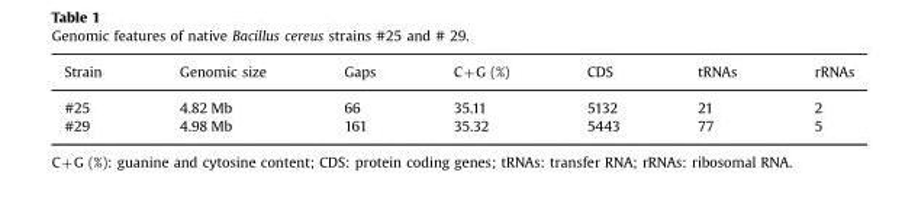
<table><thead><tr><td>Strain</td><td>Genomic size</td><td>Gaps</td><td>C+G (%)</td><td>CDS</td><td>tRNAs</td><td>rRNAs</td></tr></thead><tbody><tr><td>#25</td><td>4.82 Mb</td><td>66</td><td>35.11</td><td>5132</td><td>21</td><td>2</td></tr><tr><td>#29</td><td>4.98 Mb</td><td>161</td><td>35.32</td><td>5443</td><td>77</td><td>5</td></tr></tbody></table>